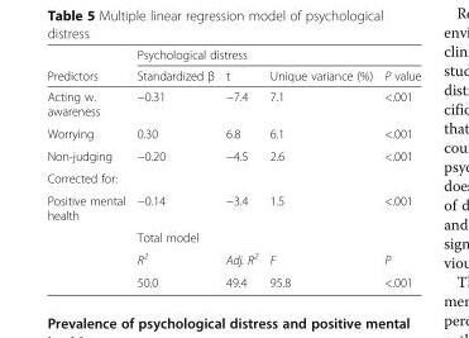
<table><thead><tr><td rowspan="2">Predictors</td><td colspan="4">Psychological distress</td></tr><tr><td>Standardized β</td><td>t</td><td>Unique variance (%)</td><td>P value</td></tr></thead><tbody><tr><td>Acting w. awareness</td><td>−0.31</td><td>−7.4</td><td>7.1</td><td>&lt;.001</td></tr><tr><td>Worrying</td><td>0.30</td><td>6.8</td><td>6.1</td><td>&lt;.001</td></tr><tr><td>Non-judging</td><td>−0.20</td><td>−4.5</td><td>2.6</td><td>&lt;.001</td></tr><tr><td colspan="5">Corrected for:</td></tr><tr><td rowspan="4">Positive mental health</td><td>−0.14</td><td>−3.4</td><td>1.5</td><td>&lt;.001</td></tr><tr><td>Total model</td><td></td><td></td><td></td></tr><tr><td>R<sup>2</sup></td><td>Adj. R<sup>2</sup></td><td>F</td><td>P</td></tr><tr><td>50.0</td><td>49.4</td><td>95.8</td><td>&lt;.001</td></tr></tbody></table>